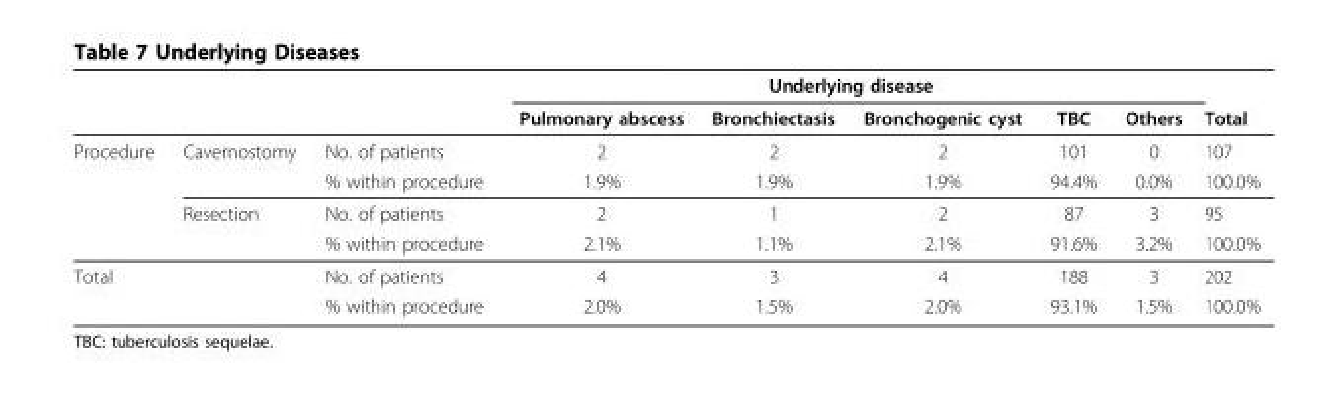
<table><thead><tr><td rowspan="2"></td><td rowspan="2"></td><td rowspan="2"></td><td colspan="5">Underlying disease</td><td rowspan="2">Total</td></tr><tr><td>Pulmonary abscess</td><td>Bronchiectasis</td><td>Bronchogenic cyst</td><td>TBC</td><td>Others</td></tr></thead><tbody><tr><td rowspan="4">Procedure</td><td>Cavernostomy</td><td>No. of patients</td><td>2</td><td>2</td><td>2</td><td>101</td><td>0</td><td>107</td></tr><tr><td></td><td>% within procedure</td><td>1.9%</td><td>1.9%</td><td>1.9%</td><td>94.4%</td><td>0.0%</td><td>100.0%</td></tr><tr><td>Resection</td><td>No. of patients</td><td>2</td><td>1</td><td>2</td><td>87</td><td>3</td><td>95</td></tr><tr><td></td><td>% within procedure</td><td>2.1%</td><td>1.1%</td><td>2.1%</td><td>91.6%</td><td>3.2%</td><td>100.0%</td></tr><tr><td rowspan="2">Total</td><td></td><td>No. of patients</td><td>4</td><td>3</td><td>4</td><td>188</td><td>3</td><td>202</td></tr><tr><td></td><td>% within procedure</td><td>2.0%</td><td>1.5%</td><td>2.0%</td><td>93.1%</td><td>1.5%</td><td>100.0%</td></tr></tbody></table>